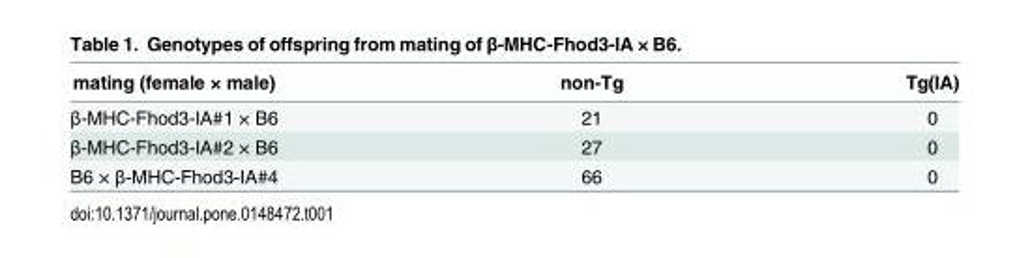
<table><thead><tr><td>mating (female × male)</td><td>non-Tg</td><td>Tg(IA)</td></tr></thead><tbody><tr><td>β-MHC-Fhod3-IA#1 × B6</td><td>21</td><td>0</td></tr><tr><td>β-MHC-Fhod3-IA#2 × B6</td><td>27</td><td>0</td></tr><tr><td>B6 × β-MHC-Fhod3-IA#4</td><td>66</td><td>0</td></tr></tbody></table>